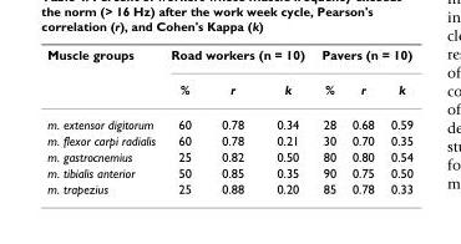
<table><thead><tr><td rowspan="2">Muscle groups</td><td colspan="3">Road workers (n = 10)</td><td colspan="3">Pavers (n = 10)</td></tr><tr><td>%</td><td>r</td><td>k</td><td>%</td><td>r</td><td>k</td></tr></thead><tbody><tr><td>m. extensor digitorum</td><td>60</td><td>0.78</td><td>0.34</td><td>28</td><td>0.68</td><td>0.59</td></tr><tr><td>m. flexor carpi radialis</td><td>60</td><td>0.78</td><td>0.21</td><td>30</td><td>0.70</td><td>0.35</td></tr><tr><td>m. gastrocnemius</td><td>25</td><td>0.82</td><td>0.50</td><td>80</td><td>0.80</td><td>0.54</td></tr><tr><td>m. tibialis anterior</td><td>50</td><td>0.85</td><td>0.35</td><td>90</td><td>0.75</td><td>0.50</td></tr><tr><td>m. trapezius</td><td>25</td><td>0.88</td><td>0.20</td><td>85</td><td>0.78</td><td>0.33</td></tr></tbody></table>